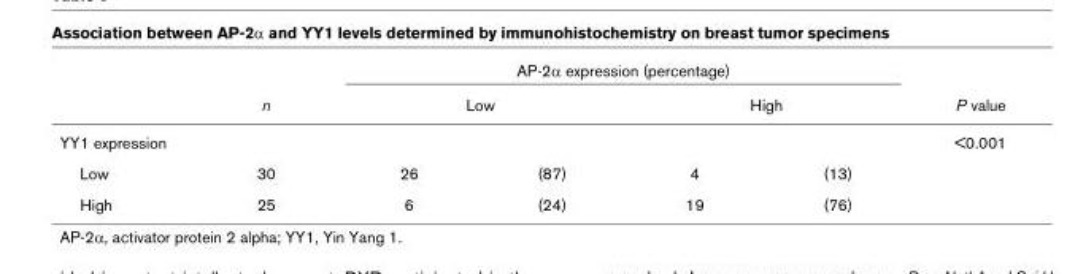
<table><thead><tr><td rowspan="3">YY1 expression</td><td rowspan="3">n</td><td colspan="4">AP-2α expression (percentage)</td><td rowspan="3">P value &lt;0.001</td></tr><tr><td colspan="2">Low</td><td colspan="2">High</td></tr><tr><td></td><td></td><td></td><td></td></tr></thead><tbody><tr><td>Low</td><td>30</td><td>26</td><td>(87)</td><td>4</td><td>(13)</td><td></td></tr><tr><td>High</td><td>25</td><td>6</td><td>(24)</td><td>19</td><td>(76)</td><td></td></tr></tbody></table>